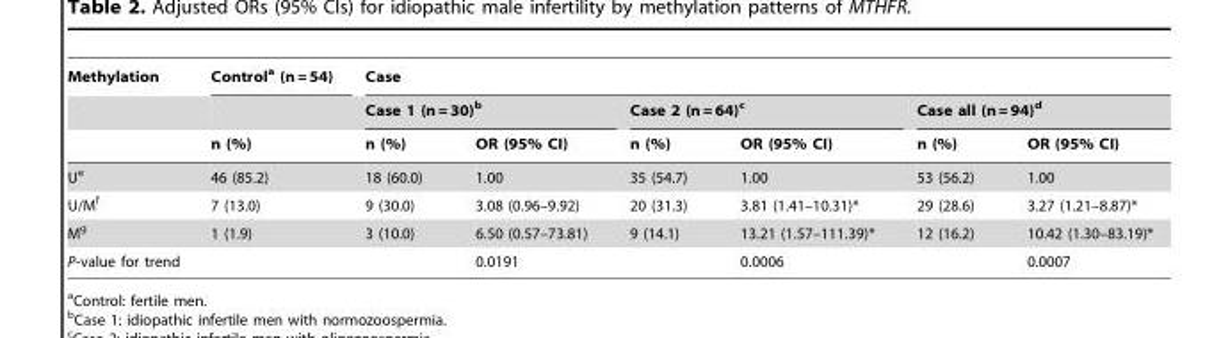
<table><thead><tr><td rowspan="3">Methylation</td><td rowspan="3">Control<sup>a</sup> (n = 54) n (%)</td><td colspan="6">Case</td></tr><tr><td colspan="2">Case 1 (n = 30)<sup>b</sup></td><td colspan="2">Case 2 (n = 64)<sup>c</sup></td><td colspan="2">Case all (n = 94)<sup>d</sup></td></tr><tr><td>n (%)</td><td>OR (95% CI)</td><td>n (%)</td><td>OR (95% CI)</td><td>n (%)</td><td>OR (95% CI)</td></tr></thead><tbody><tr><td>U<sup>e</sup></td><td>46 (85.2)</td><td>18 (60.0)</td><td>1.00</td><td>35 (54.7)</td><td>1.00</td><td>53 (56.2)</td><td>1.00</td></tr><tr><td>U/M<sup>f</sup></td><td>7 (13.0)</td><td>9 (30.0)</td><td>3.08 (0.96–9.92)</td><td>20 (31.3)</td><td>3.81 (1.41–10.31)*</td><td>29 (28.6)</td><td>3.27 (1.21–8.87)*</td></tr><tr><td>M<sup>g</sup></td><td>1 (1.9)</td><td>3 (10.0)</td><td>6.50 (0.57–73.81)</td><td>9 (14.1)</td><td>13.21 (1.57–111.39)*</td><td>12 (16.2)</td><td>10.42 (1.30–83.19)*</td></tr><tr><td>P-value for trend</td><td></td><td></td><td>0.0191</td><td></td><td>0.0006</td><td></td><td>0.0007</td></tr></tbody></table>